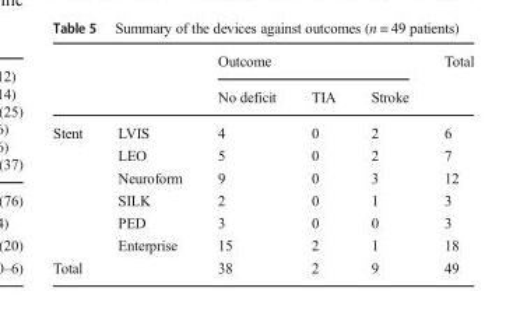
<table><thead><tr><td rowspan="2"></td><td rowspan="2"></td><td colspan="3">Outcome</td><td rowspan="2">Total</td></tr><tr><td>No deficit</td><td>TIA</td><td>Stroke</td></tr></thead><tbody><tr><td rowspan="6">Stent</td><td>LVIS</td><td>4</td><td>0</td><td>2</td><td>6</td></tr><tr><td>LEO</td><td>5</td><td>0</td><td>2</td><td>7</td></tr><tr><td>Neuroform</td><td>9</td><td>0</td><td>3</td><td>12</td></tr><tr><td>SILK</td><td>2</td><td>0</td><td>1</td><td>3</td></tr><tr><td>PED</td><td>3</td><td>0</td><td>0</td><td>3</td></tr><tr><td>Enterprise</td><td>15</td><td>2</td><td>1</td><td>18</td></tr><tr><td colspan="2">Total</td><td>38</td><td>2</td><td>9</td><td>49</td></tr></tbody></table>